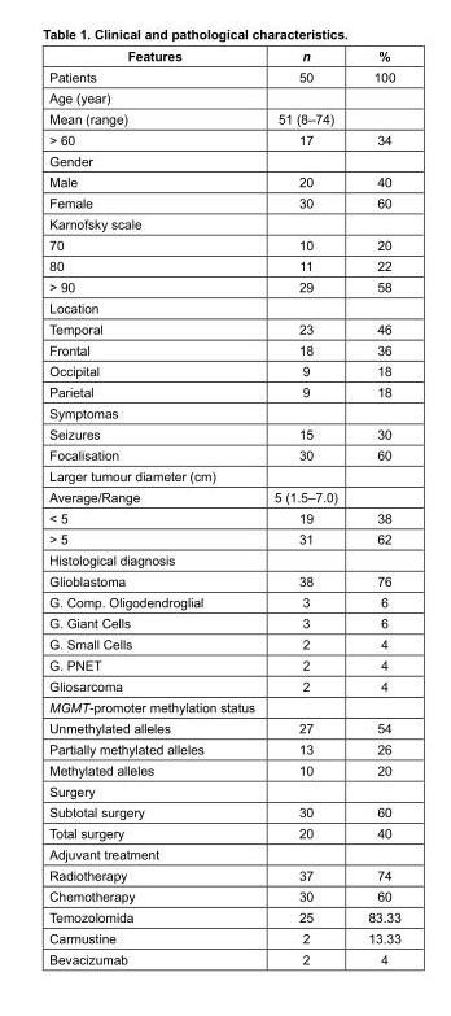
<table><thead><tr><td>Features</td><td>n</td><td>%</td></tr></thead><tbody><tr><td>Patients</td><td>50</td><td>100</td></tr><tr><td colspan="3">Age (year)</td></tr><tr><td>Mean (range)</td><td>51 (8–74)</td><td></td></tr><tr><td>&gt; 60</td><td>17</td><td>34</td></tr><tr><td colspan="3">Gender</td></tr><tr><td>Male</td><td>20</td><td>40</td></tr><tr><td>Female</td><td>30</td><td>60</td></tr><tr><td colspan="3">Karnofsky scale</td></tr><tr><td>70</td><td>10</td><td>20</td></tr><tr><td>80</td><td>11</td><td>22</td></tr><tr><td>&gt; 90</td><td>29</td><td>58</td></tr><tr><td colspan="3">Location</td></tr><tr><td>Temporal</td><td>23</td><td>46</td></tr><tr><td>Frontal</td><td>18</td><td>36</td></tr><tr><td>Occipital</td><td>9</td><td>18</td></tr><tr><td>Parietal</td><td>9</td><td>18</td></tr><tr><td colspan="3">Symptomas</td></tr><tr><td>Seizures</td><td>15</td><td>30</td></tr><tr><td>Focalisation</td><td>30</td><td>60</td></tr><tr><td colspan="3">Larger tumour diameter (cm)</td></tr><tr><td>Average/Range</td><td>5 (1.5–7.0)</td><td></td></tr><tr><td>&lt; 5</td><td>19</td><td>38</td></tr><tr><td>&gt; 5</td><td>31</td><td>62</td></tr><tr><td colspan="3">Histological diagnosis</td></tr><tr><td>Glioblastoma</td><td>38</td><td>76</td></tr><tr><td>G. Comp. Oligodendroglial</td><td>3</td><td>6</td></tr><tr><td>G. Giant Cells</td><td>3</td><td>6</td></tr><tr><td>G. Small Cells</td><td>2</td><td>4</td></tr><tr><td>G. PNET</td><td>2</td><td>4</td></tr><tr><td>Gliosarcoma</td><td>2</td><td>4</td></tr><tr><td colspan="3">MGMT-promoter methylation status</td></tr><tr><td>Unmethylated alleles</td><td>27</td><td>54</td></tr><tr><td>Partially methylated alleles</td><td>13</td><td>26</td></tr><tr><td>Methylated alleles</td><td>10</td><td>20</td></tr><tr><td colspan="3">Surgery</td></tr><tr><td>Subtotal surgery</td><td>30</td><td>60</td></tr><tr><td>Total surgery</td><td>20</td><td>40</td></tr><tr><td colspan="3">Adjuvant treatment</td></tr><tr><td>Radiotherapy</td><td>37</td><td>74</td></tr><tr><td>Chemotherapy</td><td>30</td><td>60</td></tr><tr><td>Temozolomida</td><td>25</td><td>83.33</td></tr><tr><td>Carmustine</td><td>2</td><td>13.33</td></tr><tr><td>Bevacizumab</td><td>2</td><td>4</td></tr></tbody></table>